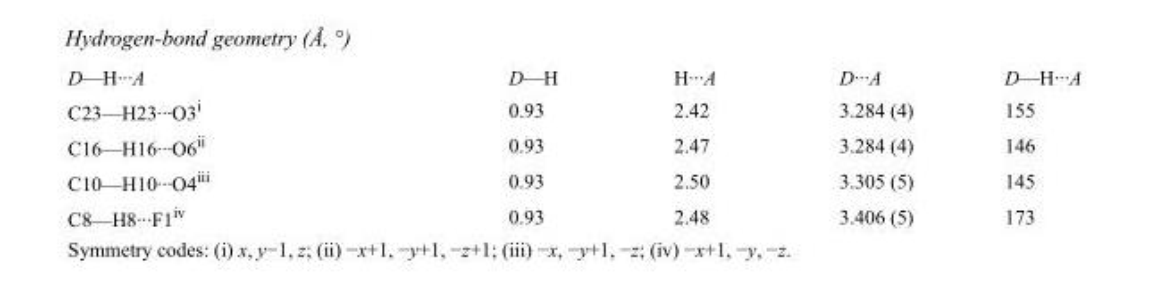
<table><tbody><tr><td>D—H···A</td><td>D—H</td><td>H···A</td><td>D···A</td><td>D—H···A</td></tr><tr><td>C23—H23···O3<sup>i</sup></td><td>0.93</td><td>2.42</td><td>3.284 (4)</td><td>155</td></tr><tr><td>C16—H16···O6<sup>ii</sup></td><td>0.93</td><td>2.47</td><td>3.284 (4)</td><td>146</td></tr><tr><td>C10—H10···O4<sup>iii</sup></td><td>0.93</td><td>2.50</td><td>3.305 (5)</td><td>145</td></tr><tr><td>C8—H8···F1<sup>iv</sup></td><td>0.93</td><td>2.48</td><td>3.406 (5)</td><td>173</td></tr></tbody></table>